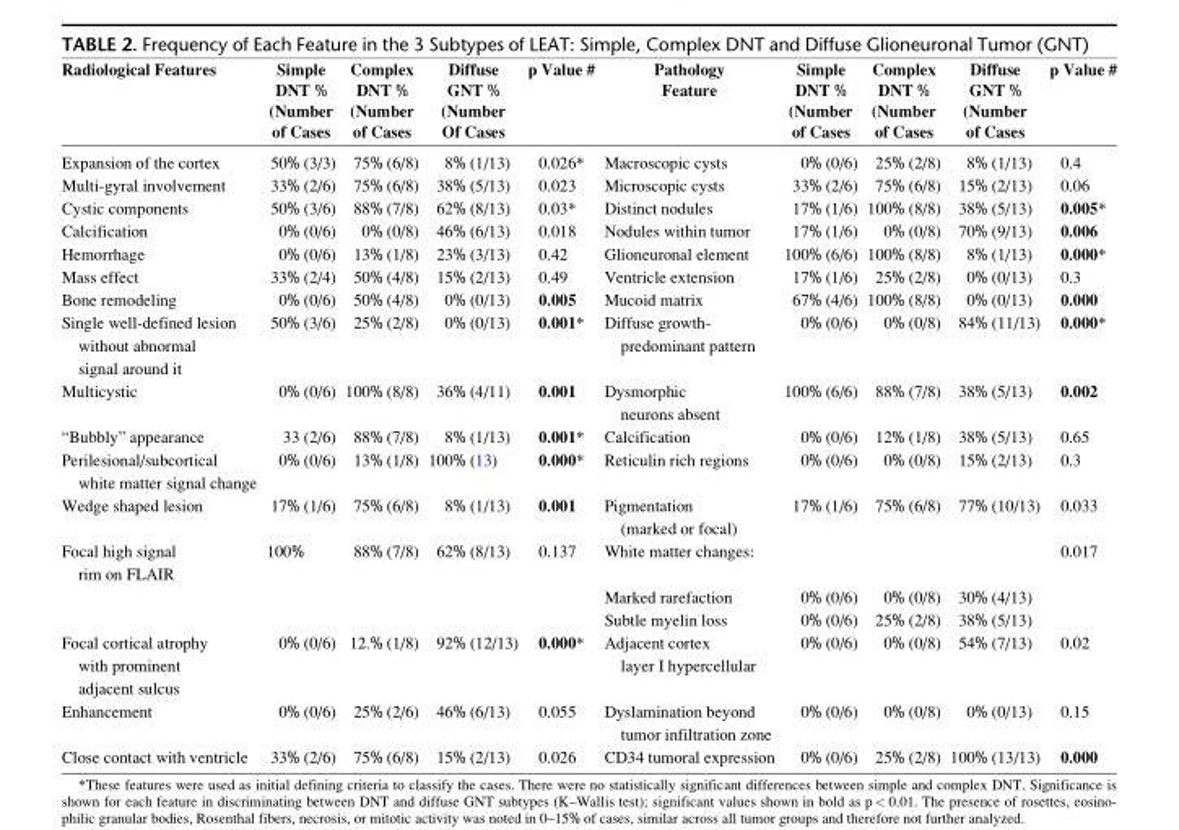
<table><thead><tr><td>Radiological Features</td><td>Simple DNT % (Number of Cases</td><td>Complex DNT % (Number of Cases</td><td>Diffuse GNT % (Number Of Cases</td><td>p Value #</td><td>Pathology Feature</td><td>Simple DNT % (Number of Cases</td><td>Complex DNT % (Number of Cases</td><td>Diffuse GNT % (Number of Cases</td><td>p Value #</td></tr></thead><tbody><tr><td>Expansion of the cortex</td><td>50% (3/3)</td><td>75% (6/8)</td><td>8% (1/13)</td><td>0.026*</td><td>Macroscopic cysts</td><td>0% (0/6)</td><td>25% (2/8)</td><td>8% (1/13)</td><td>0.4</td></tr><tr><td>Multi-gyral involvement</td><td>33% (2/6)</td><td>75% (6/8)</td><td>38% (5/13)</td><td>0.023</td><td>Microscopic cysts</td><td>33% (2/6)</td><td>75% (6/8)</td><td>15% (2/13)</td><td>0.06</td></tr><tr><td>Cystic components</td><td>50% (3/6)</td><td>88% (7/8)</td><td>62% (8/13)</td><td>0.03*</td><td>Distinct nodules</td><td>17% (1/6)</td><td>100% (8/8)</td><td>38% (5/13)</td><td>0.005*</td></tr><tr><td>Calcification</td><td>0% (0/6)</td><td>0% (0/8)</td><td>46% (6/13)</td><td>0.018</td><td>Nodules within tumor</td><td>17% (1/6)</td><td>0% (0/8)</td><td>70% (9/13)</td><td>0.006</td></tr><tr><td>Hemorrhage</td><td>0% (0/6)</td><td>13% (1/8)</td><td>23% (3/13)</td><td>0.42</td><td>Glioneuronal element</td><td>100% (6/6)</td><td>100% (8/8)</td><td>8% (1/13)</td><td>0.000*</td></tr><tr><td>Mass effect</td><td>33% (2/4)</td><td>50% (4/8)</td><td>15% (2/13)</td><td>0.49</td><td>Ventricle extension</td><td>17% (1/6)</td><td>25% (2/8)</td><td>0% (0/13)</td><td>0.3</td></tr><tr><td>Bone remodeling</td><td>0% (0/6)</td><td>50% (4/8)</td><td>0% (0/13)</td><td>0.005</td><td>Mucoid matrix</td><td>67% (4/6)</td><td>100% (8/8)</td><td>0% (0/13)</td><td>0.000</td></tr><tr><td>Single well-defined lesion without abnormal signal around it</td><td>50% (3/6)</td><td>25% (2/8)</td><td>0% (0/13)</td><td>0.001*</td><td>Diffuse growth- predominant pattern</td><td>0% (0/6)</td><td>0% (0/8)</td><td>84% (11/13)</td><td>0.000*</td></tr><tr><td>Multicystic</td><td>0% (0/6)</td><td>100% (8/8)</td><td>36% (4/11)</td><td>0.001</td><td>Dysmorphic neurons absent</td><td>100% (6/6)</td><td>88% (7/8)</td><td>38% (5/13)</td><td>0.002</td></tr><tr><td>“Bubbly” appearance</td><td>33 (2/6)</td><td>88% (7/8)</td><td>8% (1/13)</td><td>0.001*</td><td>Calcification</td><td>0% (0/6)</td><td>12% (1/8)</td><td>38% (5/13)</td><td>0.65</td></tr><tr><td>Perilesional/subcortical white matter signal change</td><td>0% (0/6)</td><td>13% (1/8)</td><td>100% (13)</td><td>0.000*</td><td>Reticulin rich regions</td><td>0% (0/6)</td><td>0% (0/8)</td><td>15% (2/13)</td><td>0.3</td></tr><tr><td>Wedge shaped lesion</td><td>17% (1/6)</td><td>75% (6/8)</td><td>8% (1/13)</td><td>0.001</td><td>Pigmentation (marked or focal)</td><td>17% (1/6)</td><td>75% (6/8)</td><td>77% (10/13)</td><td>0.033</td></tr><tr><td rowspan="3">Focal high signal rim on FLAIR</td><td>100%</td><td>88% (7/8)</td><td>62% (8/13)</td><td>0.137</td><td>White matter changes:</td><td></td><td></td><td></td><td>0.017</td></tr><tr><td></td><td></td><td></td><td></td><td>Marked rarefaction</td><td>0% (0/6)</td><td>0% (0/8)</td><td>30% (4/13)</td><td></td></tr><tr><td></td><td></td><td></td><td></td><td>Subtle myelin loss</td><td>0% (0/6)</td><td>25% (2/8)</td><td>38% (5/13)</td><td></td></tr><tr><td>Focal cortical atrophy with prominent adjacent sulcus</td><td>0% (0/6)</td><td>12.% (1/8)</td><td>92% (12/13)</td><td>0.000*</td><td>Adjacent cortex layer I hypercellular</td><td>0% (0/6)</td><td>0% (0/8)</td><td>54% (7/13)</td><td>0.02</td></tr><tr><td>Enhancement</td><td>0% (0/6)</td><td>25% (2/6)</td><td>46% (6/13)</td><td>0.055</td><td>Dyslamination beyond tumor infiltration zone</td><td>0% (0/6)</td><td>0% (0/8)</td><td>0% (0/13)</td><td>0.15</td></tr><tr><td>Close contact with ventricle</td><td>33% (2/6)</td><td>75% (6/8)</td><td>15% (2/13)</td><td>0.026</td><td>CD34 tumoral expression</td><td>0% (0/6)</td><td>25% (2/8)</td><td>100% (13/13)</td><td>0.000</td></tr></tbody></table>